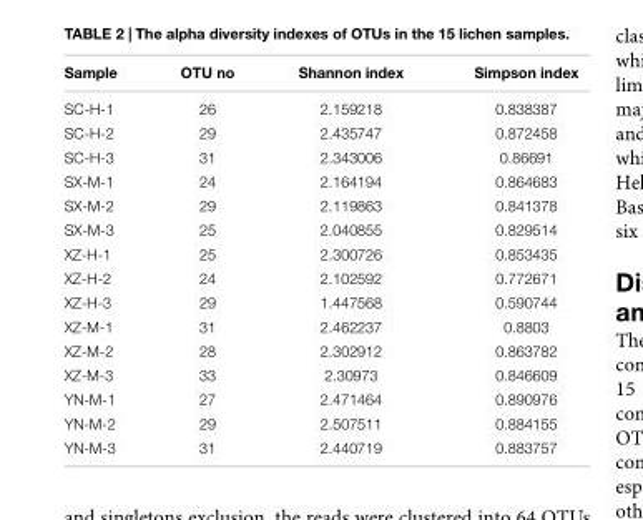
<table><thead><tr><td>Sample</td><td>OTU no</td><td>Shannon index</td><td>Simpson index</td></tr></thead><tbody><tr><td>SC-H-1</td><td>26</td><td>2.159218</td><td>0.838387</td></tr><tr><td>SC-H-2</td><td>29</td><td>2.435747</td><td>0.872458</td></tr><tr><td>SC-H-3</td><td>31</td><td>2.343006</td><td>0.86691</td></tr><tr><td>SX-M-1</td><td>24</td><td>2.164194</td><td>0.864683</td></tr><tr><td>SX-M-2</td><td>29</td><td>2.119863</td><td>0.841378</td></tr><tr><td>SX-M-3</td><td>25</td><td>2.040855</td><td>0.829514</td></tr><tr><td>XZ-H-1</td><td>25</td><td>2.300726</td><td>0.853435</td></tr><tr><td>XZ-H-2</td><td>24</td><td>2.102592</td><td>0.772671</td></tr><tr><td>XZ-H-3</td><td>29</td><td>1.447568</td><td>0.590744</td></tr><tr><td>XZ-M-1</td><td>31</td><td>2.462237</td><td>0.8803</td></tr><tr><td>XZ-M-2</td><td>28</td><td>2.302912</td><td>0.863782</td></tr><tr><td>XZ-M-3</td><td>33</td><td>2.30973</td><td>0.846609</td></tr><tr><td>YN-M-1</td><td>27</td><td>2.471464</td><td>0.890976</td></tr><tr><td>YN-M-2</td><td>29</td><td>2.507511</td><td>0.884155</td></tr><tr><td>YN-M-3</td><td>31</td><td>2.440719</td><td>0.883757</td></tr></tbody></table>